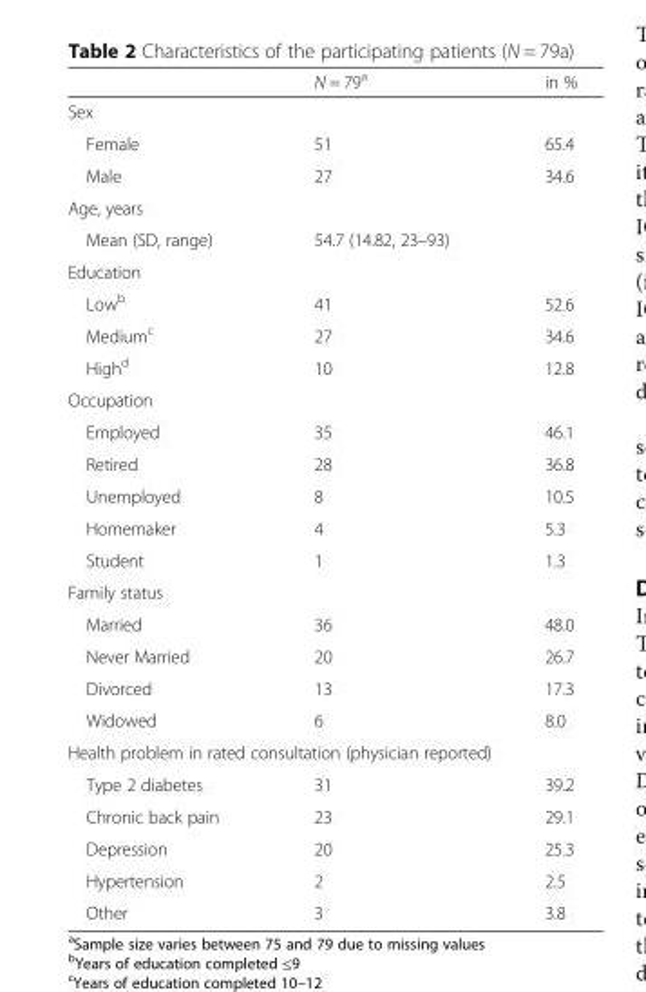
<table><thead><tr><td></td><td>N = 79<sup>a</sup></td><td>in %</td></tr></thead><tbody><tr><td colspan="3">Sex</td></tr><tr><td>Female</td><td>51</td><td>65.4</td></tr><tr><td>Male</td><td>27</td><td>34.6</td></tr><tr><td colspan="3">Age, years</td></tr><tr><td>Mean (SD, range)</td><td>54.7 (14.82, 23–93)</td><td></td></tr><tr><td colspan="3">Education</td></tr><tr><td>Low<sup>b</sup></td><td>41</td><td>52.6</td></tr><tr><td>Medium<sup>c</sup></td><td>27</td><td>34.6</td></tr><tr><td>High<sup>d</sup></td><td>10</td><td>12.8</td></tr><tr><td colspan="3">Occupation</td></tr><tr><td>Employed</td><td>35</td><td>46.1</td></tr><tr><td>Retired</td><td>28</td><td>36.8</td></tr><tr><td>Unemployed</td><td>8</td><td>10.5</td></tr><tr><td>Homemaker</td><td>4</td><td>5.3</td></tr><tr><td>Student</td><td>1</td><td>1.3</td></tr><tr><td colspan="3">Family status</td></tr><tr><td>Married</td><td>36</td><td>48.0</td></tr><tr><td>Never Married</td><td>20</td><td>26.7</td></tr><tr><td>Divorced</td><td>13</td><td>17.3</td></tr><tr><td>Widowed</td><td>6</td><td>8.0</td></tr><tr><td colspan="3">Health problem in rated consultation (physician reported)</td></tr><tr><td>Type 2 diabetes</td><td>31</td><td>39.2</td></tr><tr><td>Chronic back pain</td><td>23</td><td>29.1</td></tr><tr><td>Depression</td><td>20</td><td>25.3</td></tr><tr><td>Hypertension</td><td>2</td><td>2.5</td></tr><tr><td>Other</td><td>3</td><td>3.8</td></tr></tbody></table>